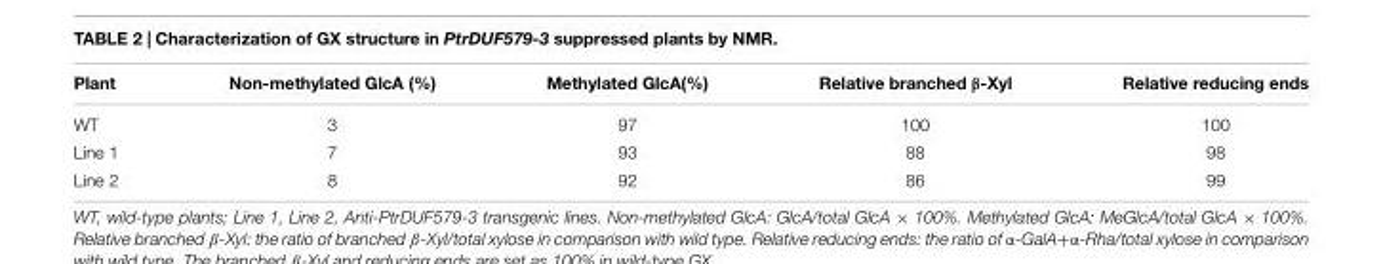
<table><thead><tr><td>Plant</td><td>Non-methylated GlcA (%)</td><td>Methylated GlcA(%)</td><td>Relative branched β-Xyl</td><td>Relative reducing ends</td></tr></thead><tbody><tr><td>WT</td><td>3</td><td>97</td><td>100</td><td>100</td></tr><tr><td>Line 1</td><td>7</td><td>93</td><td>88</td><td>98</td></tr><tr><td>Line 2</td><td>8</td><td>92</td><td>86</td><td>99</td></tr></tbody></table>